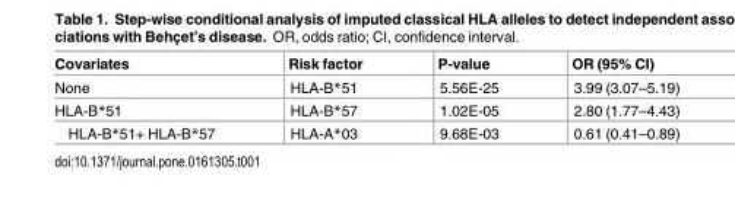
<table><thead><tr><td>Covariates</td><td>Risk factor</td><td>P-value</td><td>OR (95% CI)</td></tr></thead><tbody><tr><td>None</td><td>HLA-B*51</td><td>5.56E-25</td><td>3.99 (3.07–5.19)</td></tr><tr><td>HLA-B*51</td><td>HLA-B*57</td><td>1.02E-05</td><td>2.80 (1.77–4.43)</td></tr><tr><td>HLA-B*51+ HLA-B*57</td><td>HLA-A*03</td><td>9.68E-03</td><td>0.61 (0.41–0.89)</td></tr></tbody></table>